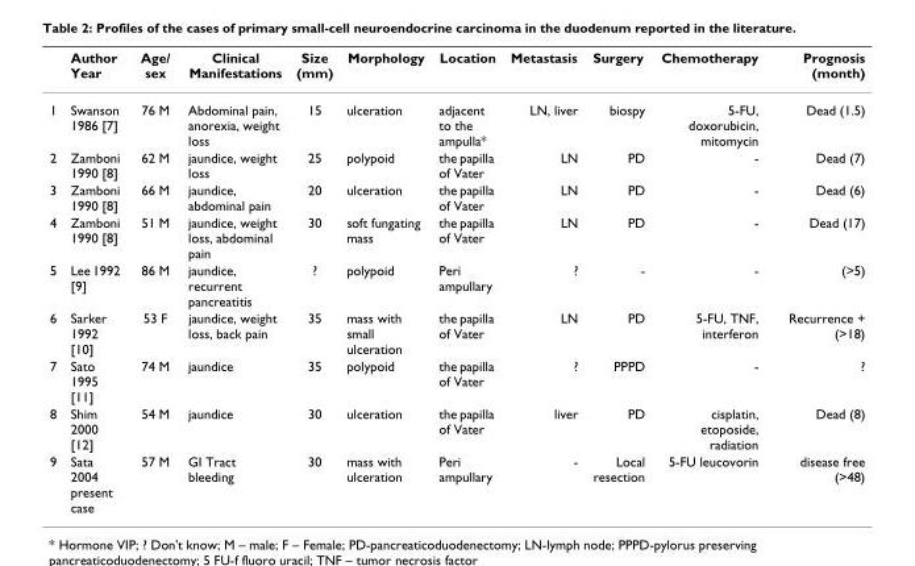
<table><thead><tr><td></td><td>Author Year</td><td>Age/ sex</td><td>Clinical Manifestations</td><td>Size (mm)</td><td>Morphology</td><td>Location</td><td>Metastasis</td><td>Surgery</td><td>Chemotherapy</td><td>Prognosis (month)</td></tr></thead><tbody><tr><td>1</td><td>Swanson 1986 [7]</td><td>76 M</td><td>Abdominal pain, anorexia, weight loss</td><td>15</td><td>ulceration</td><td>adjacent to the ampulla*</td><td>LN, liver</td><td>biospy</td><td>5-FU, doxorubicin, mitomycin</td><td>Dead (1.5)</td></tr><tr><td>2</td><td>Zamboni 1990 [8]</td><td>62 M</td><td>jaundice, weight loss</td><td>25</td><td>polypoid</td><td>the papilla of Vater</td><td>LN</td><td>PD</td><td>-</td><td>Dead (7)</td></tr><tr><td>3</td><td>Zamboni 1990 [8]</td><td>66 M</td><td>jaundice, abdominal pain</td><td>20</td><td>ulceration</td><td>the papilla of Vater</td><td>LN</td><td>PD</td><td>-</td><td>Dead (6)</td></tr><tr><td>4</td><td>Zamboni 1990 [8]</td><td>51 M</td><td>jaundice, weight loss, abdominal pain</td><td>30</td><td>soft fungating mass</td><td>the papilla of Vater</td><td>LN</td><td>PD</td><td>-</td><td>Dead (17)</td></tr><tr><td>5</td><td>Lee 1992 [9]</td><td>86 M</td><td>jaundice, recurrent pancreatitis</td><td>?</td><td>polypoid</td><td>Peri ampullary</td><td>?</td><td>-</td><td>-</td><td>(&gt;5)</td></tr><tr><td>6</td><td>Sarker 1992 [10]</td><td>53 F</td><td>jaundice, weight loss, back pain</td><td>35</td><td>mass with small ulceration</td><td>the papilla of Vater</td><td>LN</td><td>PD</td><td>5-FU, TNF, interferon</td><td>Recurrence + (&gt;18)</td></tr><tr><td>7</td><td>Sato 1995 [11]</td><td>74 M</td><td>jaundice</td><td>35</td><td>polypoid</td><td>the papilla of Vater</td><td>?</td><td>PPPD</td><td>-</td><td>?</td></tr><tr><td>8</td><td>Shim 2000 [12]</td><td>54 M</td><td>jaundice</td><td>30</td><td>ulceration</td><td>the papilla of Vater</td><td>liver</td><td>PD</td><td>cisplatin, etoposide, radiation</td><td>Dead (8)</td></tr><tr><td>9</td><td>Sata 2004 present case</td><td>57 M</td><td>GI Tract bleeding</td><td>30</td><td>mass with ulceration</td><td>Peri ampullary</td><td>-</td><td>Local resection</td><td>5-FU leucovorin</td><td>disease free (&gt;48)</td></tr></tbody></table>